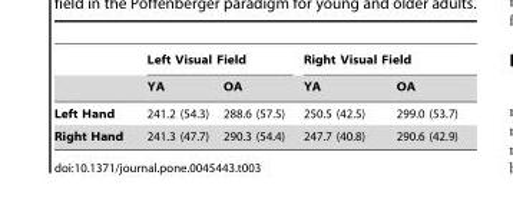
<table><thead><tr><td rowspan="2"></td><td colspan="2">Left Visual Field</td><td colspan="2">Right Visual Field</td></tr><tr><td>YA</td><td>OA</td><td>YA</td><td>OA</td></tr></thead><tbody><tr><td>Left Hand</td><td>241.2 (54.3)</td><td>288.6 (57.5)</td><td>250.5 (42.5)</td><td>299.0 (53.7)</td></tr><tr><td>Right Hand</td><td>241.3 (47.7)</td><td>290.3 (54.4)</td><td>247.7 (40.8)</td><td>290.6 (42.9)</td></tr></tbody></table>